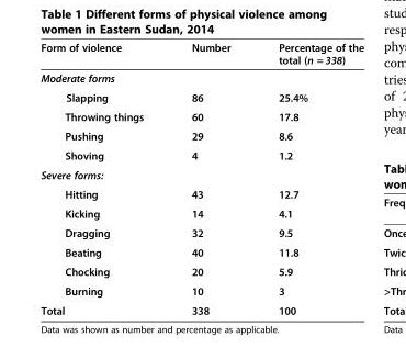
<table><thead><tr><td>Form of violence</td><td>Number</td><td>Percentage of the total (n = 338)</td></tr></thead><tbody><tr><td colspan="3">Moderate forms</td></tr><tr><td>Slapping</td><td>86</td><td>25.4%</td></tr><tr><td>Throwing things</td><td>60</td><td>17.8</td></tr><tr><td>Pushing</td><td>29</td><td>8.6</td></tr><tr><td>Shoving</td><td>4</td><td>1.2</td></tr><tr><td colspan="3">Severe forms:</td></tr><tr><td>Hitting</td><td>43</td><td>12.7</td></tr><tr><td>Kicking</td><td>14</td><td>4.1</td></tr><tr><td>Dragging</td><td>32</td><td>9.5</td></tr><tr><td>Beating</td><td>40</td><td>11.8</td></tr><tr><td>Chocking</td><td>20</td><td>5.9</td></tr><tr><td>Burning</td><td>10</td><td>3</td></tr><tr><td>Total</td><td>338</td><td>100</td></tr></tbody></table>